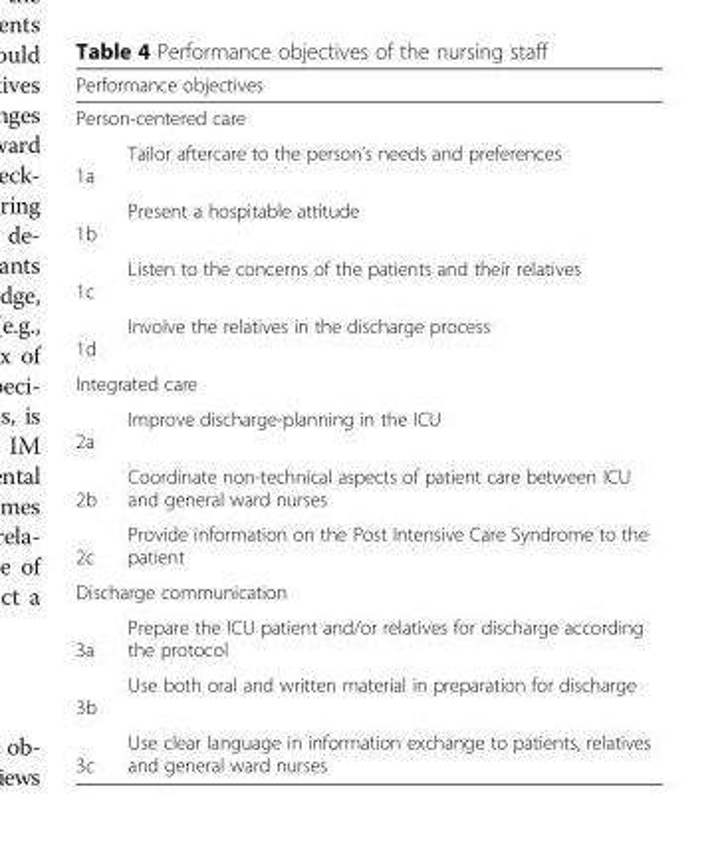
<table><thead><tr><td rowspan="2" colspan="2">Performance objectives Person-centered care</td></tr><tr></tr><tr><td>1a</td><td>Tailor aftercare to the person’s needs and preferences</td></tr></thead><tbody><tr><td>1b</td><td>Present a hospitable attitude</td></tr><tr><td>1c</td><td>Listen to the concerns of the patients and their relatives</td></tr><tr><td>1d</td><td>Involve the relatives in the discharge process</td></tr><tr><td colspan="2">Integrated care</td></tr><tr><td>2a</td><td>Improve discharge-planning in the ICU</td></tr><tr><td>2b</td><td>Coordinate non-technical aspects of patient care between ICU and general ward nurses</td></tr><tr><td>2c</td><td>Provide information on the Post Intensive Care Syndrome to the patient</td></tr><tr><td colspan="2">Discharge communication</td></tr><tr><td>3a</td><td>Prepare the ICU patient and/or relatives for discharge according the protocol</td></tr><tr><td>3b</td><td>Use both oral and written material in preparation for discharge</td></tr><tr><td>3c</td><td>Use clear language in information exchange to patients, relatives and general ward nurses</td></tr></tbody></table>